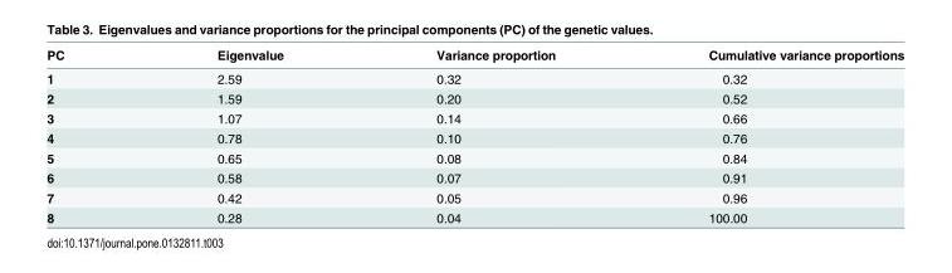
<table><thead><tr><td>PC</td><td>Eigenvalue</td><td>Variance proportion</td><td>Cumulative variance proportions</td></tr></thead><tbody><tr><td>1</td><td>2.59</td><td>0.32</td><td>0.32</td></tr><tr><td>2</td><td>1.59</td><td>0.20</td><td>0.52</td></tr><tr><td>3</td><td>1.07</td><td>0.14</td><td>0.66</td></tr><tr><td>4</td><td>0.78</td><td>0.10</td><td>0.76</td></tr><tr><td>5</td><td>0.65</td><td>0.08</td><td>0.84</td></tr><tr><td>6</td><td>0.58</td><td>0.07</td><td>0.91</td></tr><tr><td>7</td><td>0.42</td><td>0.05</td><td>0.96</td></tr><tr><td>8</td><td>0.28</td><td>0.04</td><td>100.00</td></tr></tbody></table>